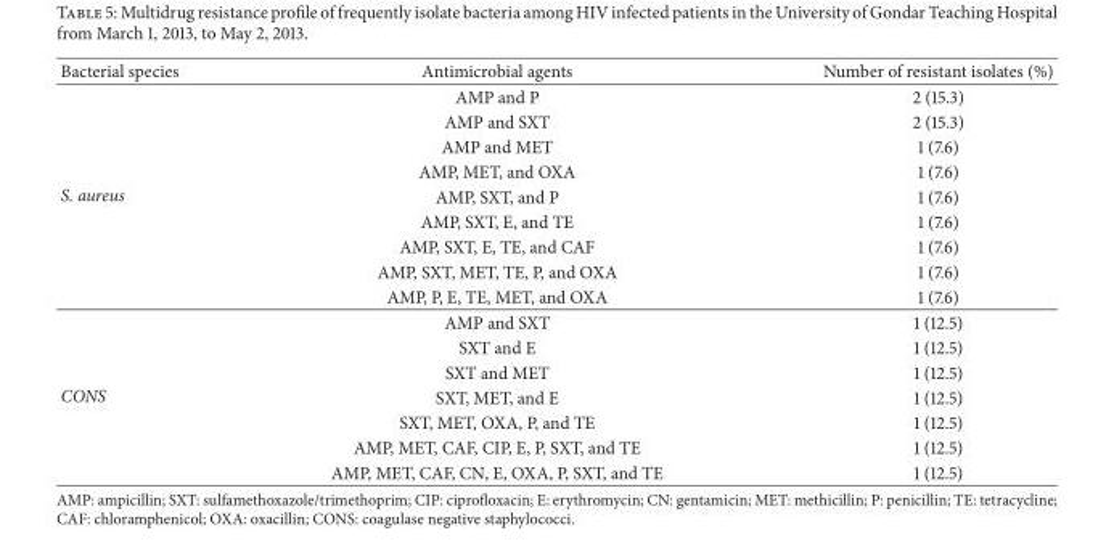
<table><thead><tr><td>Bacterial species</td><td>Antimicrobial agents</td><td>Number of resistant isolates (%)</td></tr></thead><tbody><tr><td rowspan="9">S. aureus</td><td>AMP and P</td><td>2 (15.3)</td></tr><tr><td>AMP and SXT</td><td>2 (15.3)</td></tr><tr><td>AMP and MET</td><td>1 (7.6)</td></tr><tr><td>AMP, MET, and OXA</td><td>1 (7.6)</td></tr><tr><td>AMP, SXT, and P</td><td>1 (7.6)</td></tr><tr><td>AMP, SXT, E, and TE</td><td>1 (7.6)</td></tr><tr><td>AMP, SXT, E, TE, and CAF</td><td>1 (7.6)</td></tr><tr><td>AMP, SXT, MET, TE, P, and OXA</td><td>1 (7.6)</td></tr><tr><td>AMP, P, E, TE, MET, and OXA</td><td>1 (7.6)</td></tr><tr><td rowspan="7">CONS</td><td>AMP and SXT</td><td>1 (12.5)</td></tr><tr><td>SXT and E</td><td>1 (12.5)</td></tr><tr><td>SXT and MET</td><td>1 (12.5)</td></tr><tr><td>SXT, MET, and E</td><td>1 (12.5)</td></tr><tr><td>SXT, MET, OXA, P, and TE</td><td>1 (12.5)</td></tr><tr><td>AMP, MET, CAF, CIP, E, P, SXT, and TE</td><td>1 (12.5)</td></tr><tr><td>AMP, MET, CAF, CN, E, OXA, P, SXT, and TE</td><td>1 (12.5)</td></tr></tbody></table>